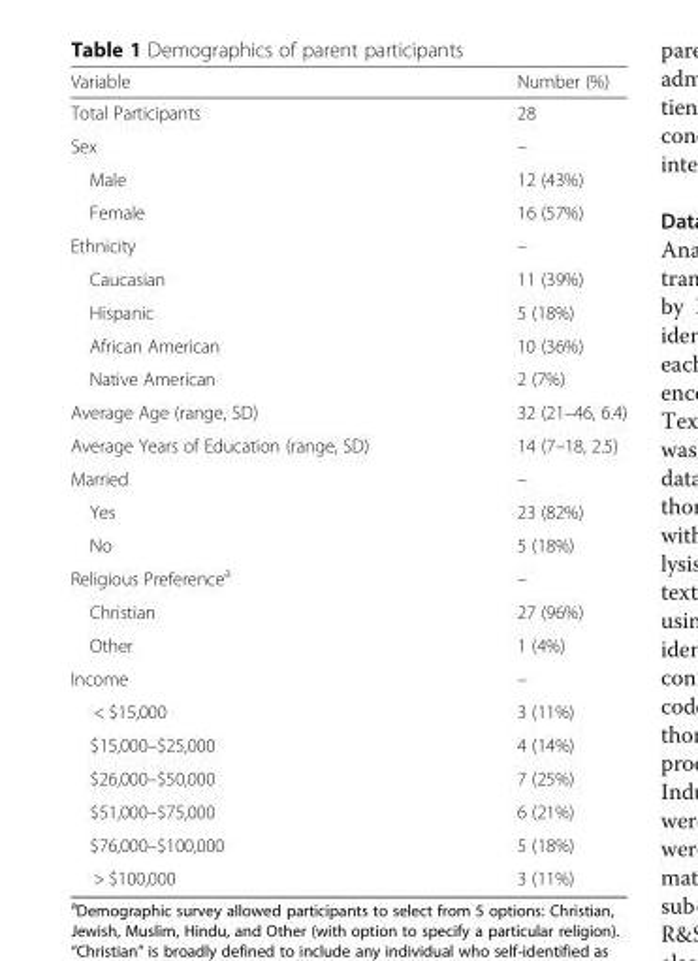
<table><thead><tr><td>Variable</td><td>Number (%)</td></tr></thead><tbody><tr><td>Total Participants</td><td>28</td></tr><tr><td>Sex</td><td>–</td></tr><tr><td>Male</td><td>12 (43%)</td></tr><tr><td>Female</td><td>16 (57%)</td></tr><tr><td>Ethnicity</td><td>–</td></tr><tr><td>Caucasian</td><td>11 (39%)</td></tr><tr><td>Hispanic</td><td>5 (18%)</td></tr><tr><td>African American</td><td>10 (36%)</td></tr><tr><td>Native American</td><td>2 (7%)</td></tr><tr><td>Average Age (range, SD)</td><td>32 (21–46, 6.4)</td></tr><tr><td>Average Years of Education (range, SD)</td><td>14 (7–18, 2.5)</td></tr><tr><td>Married</td><td>–</td></tr><tr><td>Yes</td><td>23 (82%)</td></tr><tr><td>No</td><td>5 (18%)</td></tr><tr><td>Religious Preference<sup>a</sup></td><td>–</td></tr><tr><td>Christian</td><td>27 (96%)</td></tr><tr><td>Other</td><td>1 (4%)</td></tr><tr><td>Income</td><td>–</td></tr><tr><td>&lt; $15,000</td><td>3 (11%)</td></tr><tr><td>$15,000–$25,000</td><td>4 (14%)</td></tr><tr><td>$26,000–$50,000</td><td>7 (25%)</td></tr><tr><td>$51,000–$75,000</td><td>6 (21%)</td></tr><tr><td>$76,000–$100,000</td><td>5 (18%)</td></tr><tr><td>&gt; $100,000</td><td>3 (11%)</td></tr></tbody></table>